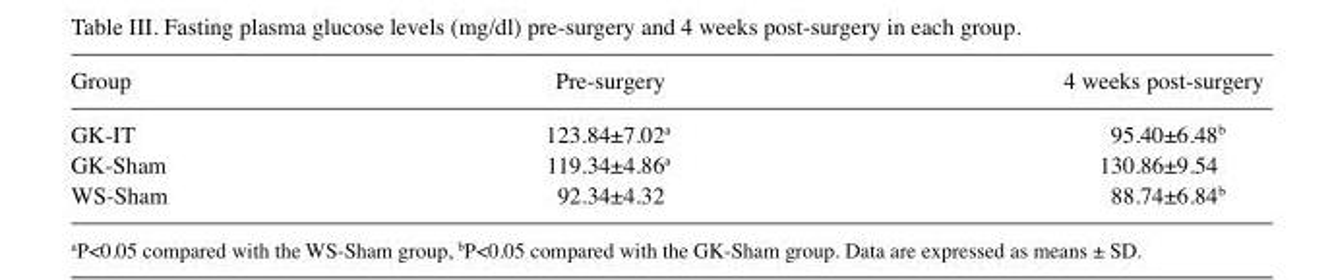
<table><thead><tr><td>Group</td><td>Pre-surgery</td><td>4 weeks post-surgery</td></tr></thead><tbody><tr><td>GK-IT</td><td>123.84±7.02<sup>a</sup></td><td>95.40±6.48<sup>b</sup></td></tr><tr><td>GK-Sham</td><td>119.34±4.86<sup>a</sup></td><td>130.86±9.54</td></tr><tr><td>WS-Sham</td><td>92.34±4.32</td><td>88.74±6.84<sup>b</sup></td></tr></tbody></table>